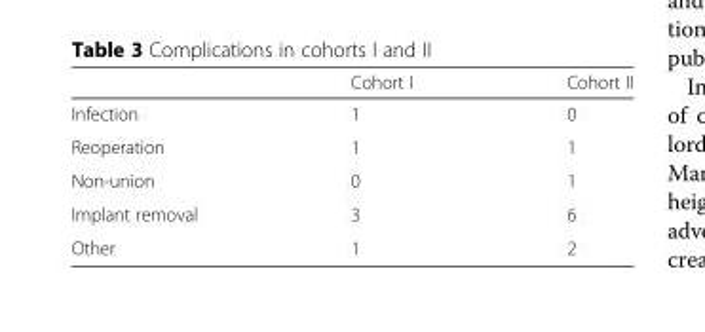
<table><thead><tr><td></td><td>Cohort I</td><td>Cohort II</td></tr></thead><tbody><tr><td>Infection</td><td>1</td><td>0</td></tr><tr><td>Reoperation</td><td>1</td><td>1</td></tr><tr><td>Non-union</td><td>0</td><td>1</td></tr><tr><td>Implant removal</td><td>3</td><td>6</td></tr><tr><td>Other</td><td>1</td><td>2</td></tr></tbody></table>